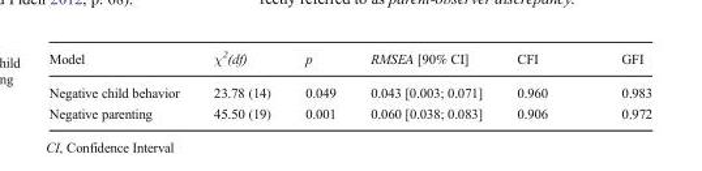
<table><thead><tr><td>Model</td><td>χ<sup>2</sup>(df)</td><td>p</td><td>RMSEA [90% CI]</td><td>CFI</td><td>GFI</td></tr></thead><tbody><tr><td>Negative child behavior</td><td>23.78 (14)</td><td>0.049</td><td>0.043 [0.003; 0.071]</td><td>0.960</td><td>0.983</td></tr><tr><td>Negative parenting</td><td>45.50 (19)</td><td>0.001</td><td>0.060 [0.038; 0.083]</td><td>0.906</td><td>0.972</td></tr></tbody></table>